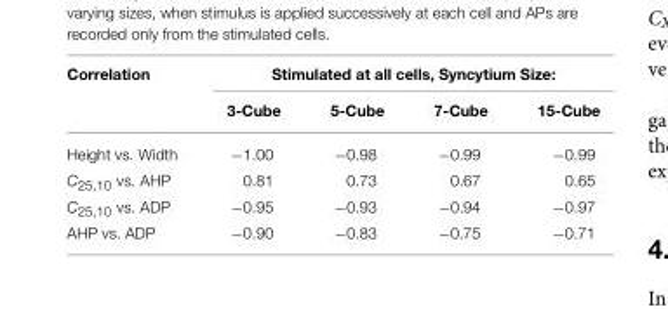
<table><thead><tr><td rowspan="2">Correlation</td><td colspan="4">Stimulated at all cells, Syncytium Size:</td></tr><tr><td>3-Cube</td><td>5-Cube</td><td>7-Cube</td><td>15-Cube</td></tr></thead><tbody><tr><td>Height vs. Width</td><td>−1.00</td><td>−0.98</td><td>−0.99</td><td>−0.99</td></tr><tr><td>C<sub>25,10</sub> vs. AHP</td><td>0.81</td><td>0.73</td><td>0.67</td><td>0.65</td></tr><tr><td>C<sub>25,10</sub> vs. ADP</td><td>−0.95</td><td>−0.93</td><td>−0.94</td><td>−0.97</td></tr><tr><td>AHP vs. ADP</td><td>−0.90</td><td>−0.83</td><td>−0.75</td><td>−0.71</td></tr></tbody></table>